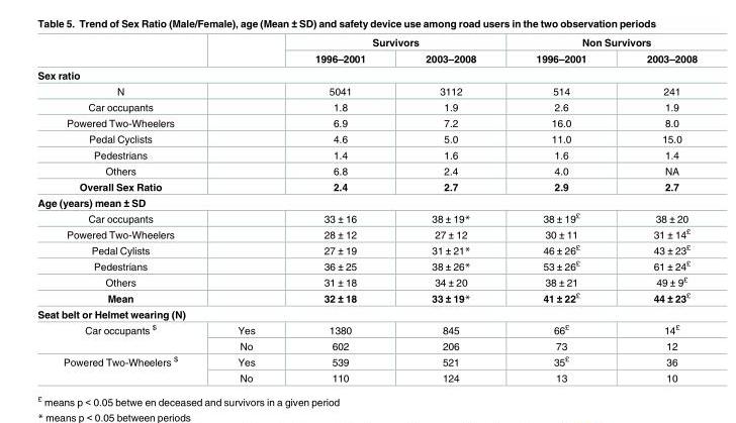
<table><thead><tr><td rowspan="2"></td><td rowspan="2"></td><td colspan="2">Survivors</td><td colspan="2">Non Survivors</td></tr><tr><td>1996–2001</td><td>2003–2008</td><td>1996–2001</td><td>2003–2008</td></tr></thead><tbody><tr><td colspan="6">Sex ratio</td></tr><tr><td>N</td><td></td><td>5041</td><td>3112</td><td>514</td><td>241</td></tr><tr><td>Car occupants</td><td></td><td>1.8</td><td>1.9</td><td>2.6</td><td>1.9</td></tr><tr><td>Powered Two-Wheelers</td><td></td><td>6.9</td><td>7.2</td><td>16.0</td><td>8.0</td></tr><tr><td>Pedal Cyclists</td><td></td><td>4.6</td><td>5.0</td><td>11.0</td><td>15.0</td></tr><tr><td>Pedestrians</td><td></td><td>1.4</td><td>1.6</td><td>1.6</td><td>1.4</td></tr><tr><td>Others</td><td></td><td>6.8</td><td>2.4</td><td>4.0</td><td>NA</td></tr><tr><td>Overall Sex Ratio</td><td></td><td>2.4</td><td>2.7</td><td>2.9</td><td>2.7</td></tr><tr><td colspan="6">Age (years) mean ± SD</td></tr><tr><td>Car occupants</td><td></td><td>33 ± 16</td><td>38 ± 19*</td><td>38 ± 19<sup>£</sup></td><td>38 ± 20</td></tr><tr><td>Powered Two-Wheelers</td><td></td><td>28 ± 12</td><td>27 ± 12</td><td>30 ± 11</td><td>31 ± 14<sup>£</sup></td></tr><tr><td>Pedal Cylists</td><td></td><td>27 ± 19</td><td>31 ± 21*</td><td>46 ± 26<sup>£</sup></td><td>43 ± 23<sup>£</sup></td></tr><tr><td>Pedestrians</td><td></td><td>36 ± 25</td><td>38 ± 26*</td><td>53 ± 26<sup>£</sup></td><td>61 ± 24<sup>£</sup></td></tr><tr><td>Others</td><td></td><td>31 ± 18</td><td>34 ± 20</td><td>38 ± 21</td><td>49 ± 9<sup>£</sup></td></tr><tr><td>Mean</td><td></td><td>32 ± 18</td><td>33 ± 19*</td><td>41 ± 22<sup>£</sup></td><td>44 ± 23<sup>£</sup></td></tr><tr><td colspan="6">Seat belt or Helmet wearing (N)</td></tr><tr><td rowspan="2">Car occupants <sup>$</sup></td><td>Yes</td><td>1380</td><td>845</td><td>66<sup>£</sup></td><td>14<sup>£</sup></td></tr><tr><td>No</td><td>602</td><td>206</td><td>73</td><td>12</td></tr><tr><td rowspan="2">Powered Two-Wheelers <sup>$</sup></td><td>Yes</td><td>539</td><td>521</td><td>35<sup>£</sup></td><td>36</td></tr><tr><td>No</td><td>110</td><td>124</td><td>13</td><td>10</td></tr></tbody></table>